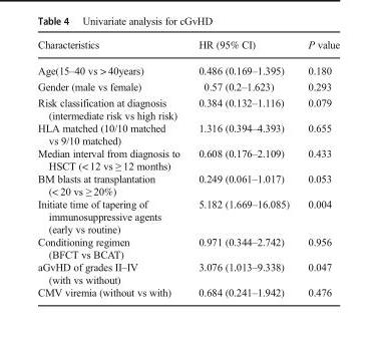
<table><thead><tr><td>Characteristics</td><td>HR (95% CI)</td><td>P value</td></tr></thead><tbody><tr><td>Age(15–40 vs &gt; 40years)</td><td>0.486 (0.169–1.395)</td><td>0.180</td></tr><tr><td>Gender (male vs female)</td><td>0.57 (0.2–1.623)</td><td>0.293</td></tr><tr><td>Risk classification at diagnosis (intermediate risk vs high risk)</td><td>0.384 (0.132–1.116)</td><td>0.079</td></tr><tr><td>HLA matched (10/10 matched vs 9/10 matched)</td><td>1.316 (0.394–4.393)</td><td>0.655</td></tr><tr><td>Median interval from diagnosis to HSCT (&lt; 12 vs ≥ 12 months)</td><td>0.608 (0.176–2.109)</td><td>0.433</td></tr><tr><td>BM blasts at transplantation (&lt; 20 vs ≥ 20%)</td><td>0.249 (0.061–1.017)</td><td>0.053</td></tr><tr><td>Initiate time of tapering of immunosuppressive agents (early vs routine)</td><td>5.182 (1.669–16.085)</td><td>0.004</td></tr><tr><td>Conditioning regimen (BFCT vs BCAT)</td><td>0.971 (0.344–2.742)</td><td>0.956</td></tr><tr><td>aGvHD of grades II–IV (with vs without)</td><td>3.076 (1.013–9.338)</td><td>0.047</td></tr><tr><td>CMV viremia (without vs with)</td><td>0.684 (0.241–1.942)</td><td>0.476</td></tr></tbody></table>